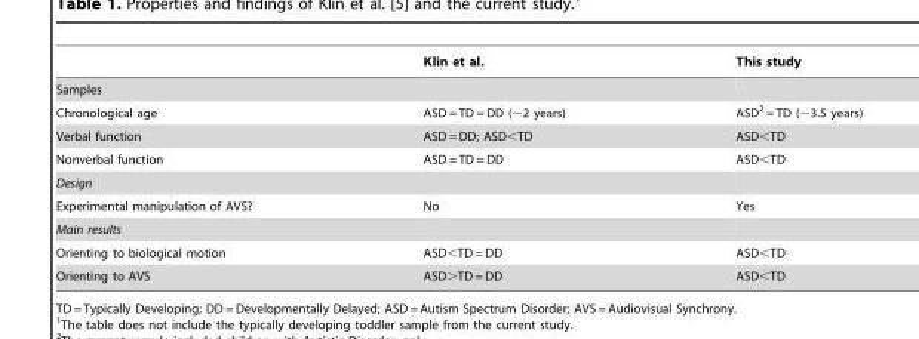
<table><thead><tr><td></td><td>Klin et al.</td><td>This study</td></tr></thead><tbody><tr><td colspan="3">Samples</td></tr><tr><td>Chronological age</td><td>ASD = TD = DD (∼2 years)</td><td>ASD<sup>2</sup> = TD (∼3.5 years)</td></tr><tr><td>Verbal function</td><td>ASD = DD; ASD&lt;TD</td><td>ASD&lt;TD</td></tr><tr><td>Nonverbal function</td><td>ASD = TD = DD</td><td>ASD&lt;TD</td></tr><tr><td colspan="3">Design</td></tr><tr><td>Experimental manipulation of AVS?</td><td>No</td><td>Yes</td></tr><tr><td colspan="3">Main results</td></tr><tr><td>Orienting to biological motion</td><td>ASD&lt;TD = DD</td><td>ASD&lt;TD</td></tr><tr><td>Orienting to AVS</td><td>ASD&gt;TD = DD</td><td>ASD&lt;TD</td></tr></tbody></table>